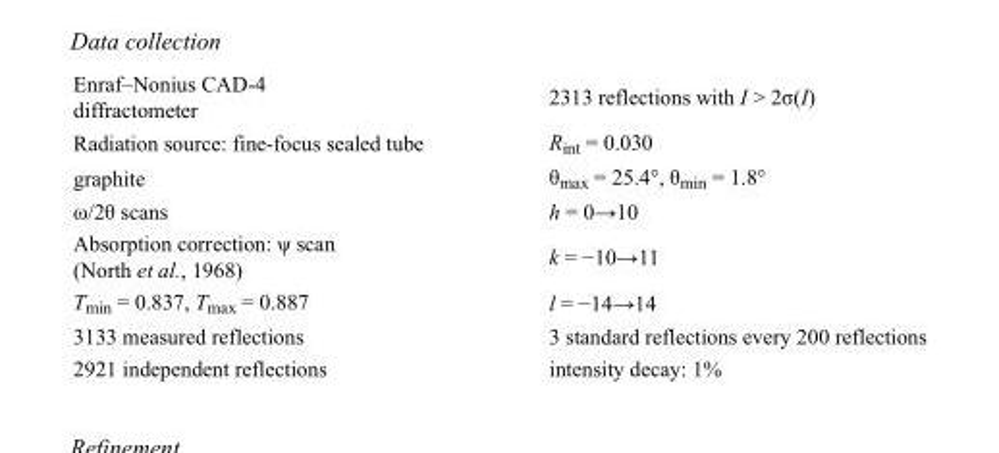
<table><tbody><tr><td>Enraf–Nonius CAD-4 diffractometer</td><td>2313 reflections with I &gt; 2σ(I)</td></tr><tr><td>Radiation source: fine-focus sealed tube</td><td>R<sub>int</sub> = 0.030</td></tr><tr><td>graphite</td><td>θ<sub>max</sub> = 25.4°, θ<sub>min</sub> = 1.8°</td></tr><tr><td>ω/2θ scans</td><td>h = 0→10</td></tr><tr><td>Absorption correction: ψ scan (North et al., 1968)</td><td>k = −10→11</td></tr><tr><td>T<sub>min</sub> = 0.837, T<sub>max</sub> = 0.887</td><td>l = −14→14</td></tr><tr><td>3133 measured reflections</td><td>3 standard reflections every 200 reflections</td></tr><tr><td>2921 independent reflections</td><td>intensity decay: 1%</td></tr></tbody></table>